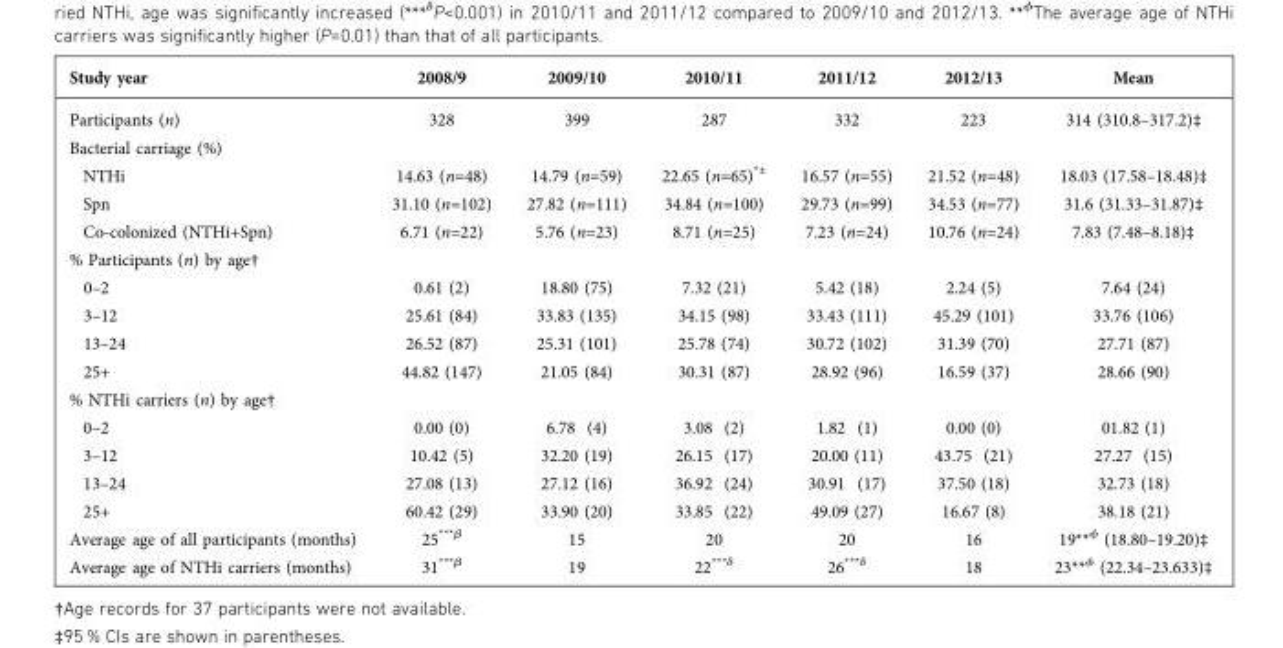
<table><thead><tr><td>Study year</td><td>2008/9</td><td>2009/10</td><td>2010/11</td><td>2011/12</td><td>2012/13</td><td>Mean</td></tr></thead><tbody><tr><td>Participants (n)</td><td>328</td><td>399</td><td>287</td><td>332</td><td>223</td><td>314 (310.8–317.2)‡</td></tr><tr><td colspan="7">Bacterial carriage (%)</td></tr><tr><td>NTHi</td><td>14.63 (n=48)</td><td>14.79 (n=59)</td><td>22.65 (n=65)<sup>*±</sup></td><td>16.57 (n=55)</td><td>21.52 (n=48)</td><td>18.03 (17.58–18.48)‡</td></tr><tr><td>Spn</td><td>31.10 (n=102)</td><td>27.82 (n=111)</td><td>34.84 (n=100)</td><td>29.73 (n=99)</td><td>34.53 (n=77)</td><td>31.6 (31.33–31.87)‡</td></tr><tr><td>Co-colonized (NTHi+Spn)</td><td>6.71 (n=22)</td><td>5.76 (n=23)</td><td>8.71 (n=25)</td><td>7.23 (n=24)</td><td>10.76 (n=24)</td><td>7.83 (7.48–8.18)‡</td></tr><tr><td colspan="7">% Participants (n) by age†</td></tr><tr><td>0–2</td><td>0.61 (2)</td><td>18.80 (75)</td><td>7.32 (21)</td><td>5.42 (18)</td><td>2.24 (5)</td><td>7.64 (24)</td></tr><tr><td>3–12</td><td>25.61 (84)</td><td>33.83 (135)</td><td>34.15 (98)</td><td>33.43 (111)</td><td>45.29 (101)</td><td>33.76 (106)</td></tr><tr><td>13–24</td><td>26.52 (87)</td><td>25.31 (101)</td><td>25.78 (74)</td><td>30.72 (102)</td><td>31.39 (70)</td><td>27.71 (87)</td></tr><tr><td>25+</td><td>44.82 (147)</td><td>21.05 (84)</td><td>30.31 (87)</td><td>28.92 (96)</td><td>16.59 (37)</td><td>28.66 (90)</td></tr><tr><td colspan="7">% NTHi carriers (n) by age†</td></tr><tr><td>0–2</td><td>0.00 (0)</td><td>6.78 (4)</td><td>3.08 (2)</td><td>1.82 (1)</td><td>0.00 (0)</td><td>01.82 (1)</td></tr><tr><td>3–12</td><td>10.42 (5)</td><td>32.20 (19)</td><td>26.15 (17)</td><td>20.00 (11)</td><td>43.75 (21)</td><td>27.27 (15)</td></tr><tr><td>13–24</td><td>27.08 (13)</td><td>27.12 (16)</td><td>36.92 (24)</td><td>30.91 (17)</td><td>37.50 (18)</td><td>32.73 (18)</td></tr><tr><td>25+</td><td>60.42 (29)</td><td>33.90 (20)</td><td>33.85 (22)</td><td>49.09 (27)</td><td>16.67 (8)</td><td>38.18 (21)</td></tr><tr><td>Average age of all participants (months)</td><td>25<sup>***β</sup></td><td>15</td><td>20</td><td>20</td><td>16</td><td>19**<sup>ϕ</sup> (18.80–19.20)‡</td></tr><tr><td>Average age of NTHi carriers (months)</td><td>31<sup>***β</sup></td><td>19</td><td>22<sup>***δ</sup></td><td>26<sup>***δ</sup></td><td>18</td><td>23**<sup>ϕ</sup> (22.34–23.633)‡</td></tr></tbody></table>